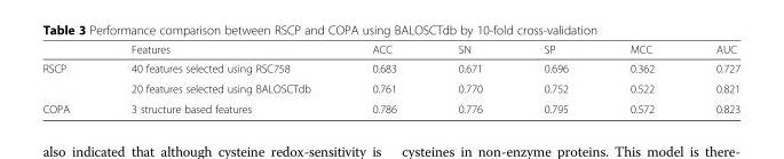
<table><thead><tr><td></td><td>Features</td><td>ACC</td><td>SN</td><td>SP</td><td>MCC</td><td>AUC</td></tr></thead><tbody><tr><td rowspan="2">RSCP</td><td>40 features selected using RSC758</td><td>0.683</td><td>0.671</td><td>0.696</td><td>0.362</td><td>0.727</td></tr><tr><td>20 features selected using BALOSCTdb</td><td>0.761</td><td>0.770</td><td>0.752</td><td>0.522</td><td>0.821</td></tr><tr><td>COPA</td><td>3 structure based features</td><td>0.786</td><td>0.776</td><td>0.795</td><td>0.572</td><td>0.823</td></tr></tbody></table>